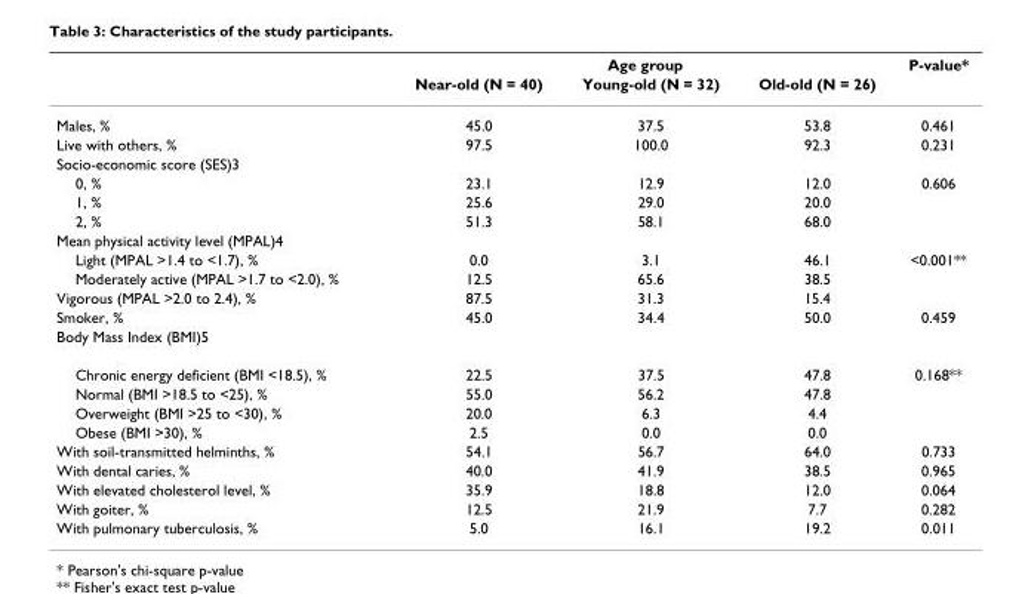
<table><thead><tr><td rowspan="2"></td><td colspan="3">Age group</td><td rowspan="2">P-value*</td></tr><tr><td>Near-old (N = 40)</td><td>Young-old (N = 32)</td><td>Old-old (N = 26)</td></tr></thead><tbody><tr><td>Males, %</td><td>45.0</td><td>37.5</td><td>53.8</td><td>0.461</td></tr><tr><td>Live with others, %</td><td>97.5</td><td>100.0</td><td>92.3</td><td>0.231</td></tr><tr><td colspan="5">Socio-economic score (SES)3</td></tr><tr><td>0, %</td><td>23.1</td><td>12.9</td><td>12.0</td><td>0.606</td></tr><tr><td>1, %</td><td>25.6</td><td>29.0</td><td>20.0</td><td></td></tr><tr><td>2, %</td><td>51.3</td><td>58.1</td><td>68.0</td><td></td></tr><tr><td colspan="5">Mean physical activity level (MPAL)4</td></tr><tr><td>Light (MPAL &gt;1.4 to &lt;1.7), %</td><td>0.0</td><td>3.1</td><td>46.1</td><td>&lt;0.001**</td></tr><tr><td>Moderately active (MPAL &gt;1.7 to &lt;2.0), %</td><td>12.5</td><td>65.6</td><td>38.5</td><td></td></tr><tr><td>Vigorous (MPAL &gt;2.0 to 2.4), %</td><td>87.5</td><td>31.3</td><td>15.4</td><td></td></tr><tr><td>Smoker, %</td><td>45.0</td><td>34.4</td><td>50.0</td><td>0.459</td></tr><tr><td colspan="5">Body Mass Index (BMI)5</td></tr><tr><td>Chronic energy deficient (BMI &lt;18.5), %</td><td>22.5</td><td>37.5</td><td>47.8</td><td>0.168**</td></tr><tr><td>Normal (BMI &gt;18.5 to &lt;25), %</td><td>55.0</td><td>56.2</td><td>47.8</td><td></td></tr><tr><td>Overweight (BMI &gt;25 to &lt;30), %</td><td>20.0</td><td>6.3</td><td>4.4</td><td></td></tr><tr><td>Obese (BMI &gt;30), %</td><td>2.5</td><td>0.0</td><td>0.0</td><td></td></tr><tr><td>With soil-transmitted helminths, %</td><td>54.1</td><td>56.7</td><td>64.0</td><td>0.733</td></tr><tr><td>With dental caries, %</td><td>40.0</td><td>41.9</td><td>38.5</td><td>0.965</td></tr><tr><td>With elevated cholesterol level, %</td><td>35.9</td><td>18.8</td><td>12.0</td><td>0.064</td></tr><tr><td>With goiter, %</td><td>12.5</td><td>21.9</td><td>7.7</td><td>0.282</td></tr><tr><td>With pulmonary tuberculosis, %</td><td>5.0</td><td>16.1</td><td>19.2</td><td>0.011</td></tr></tbody></table>